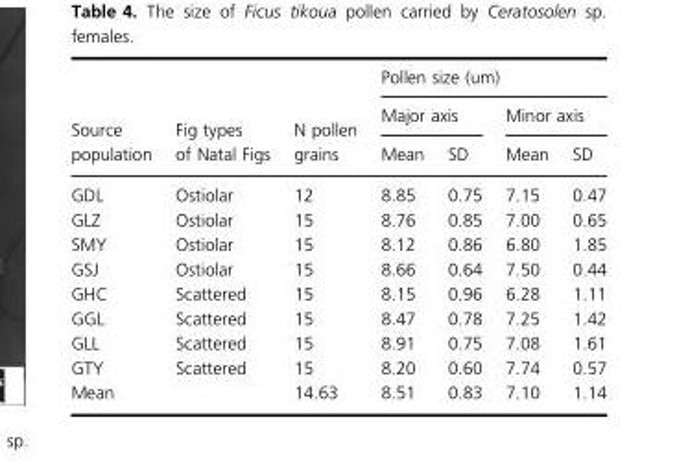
<table><thead><tr><td rowspan="3">Source population</td><td rowspan="3">Fig types of Natal Figs</td><td rowspan="3">N pollen grains</td><td colspan="4">Pollen size (um)</td></tr><tr><td colspan="2">Major axis</td><td colspan="2">Minor axis</td></tr><tr><td>Mean</td><td>SD</td><td>Mean</td><td>SD</td></tr></thead><tbody><tr><td>GDL</td><td>Ostiolar</td><td>12</td><td>8.85</td><td>0.75</td><td>7.15</td><td>0.47</td></tr><tr><td>GLZ</td><td>Ostiolar</td><td>15</td><td>8.76</td><td>0.85</td><td>7.00</td><td>0.65</td></tr><tr><td>SMY</td><td>Ostiolar</td><td>15</td><td>8.12</td><td>0.86</td><td>6.80</td><td>1.85</td></tr><tr><td>GSJ</td><td>Ostiolar</td><td>15</td><td>8.66</td><td>0.64</td><td>7.50</td><td>0.44</td></tr><tr><td>GHC</td><td>Scattered</td><td>15</td><td>8.15</td><td>0.96</td><td>6.28</td><td>1.11</td></tr><tr><td>GGL</td><td>Scattered</td><td>15</td><td>8.47</td><td>0.78</td><td>7.25</td><td>1.42</td></tr><tr><td>GLL</td><td>Scattered</td><td>15</td><td>8.91</td><td>0.75</td><td>7.08</td><td>1.61</td></tr><tr><td>GTY</td><td>Scattered</td><td>15</td><td>8.20</td><td>0.60</td><td>7.74</td><td>0.57</td></tr><tr><td>Mean</td><td></td><td>14.63</td><td>8.51</td><td>0.83</td><td>7.10</td><td>1.14</td></tr></tbody></table>